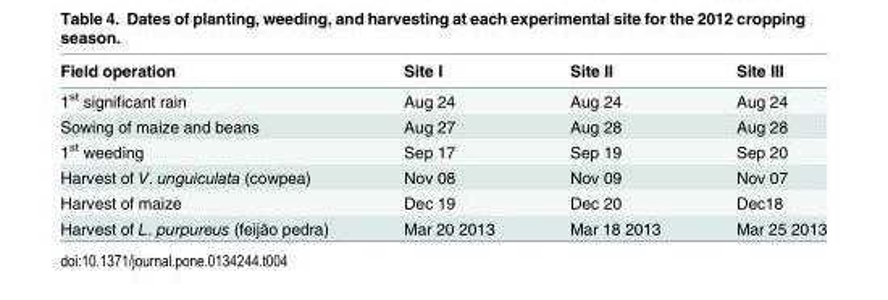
<table><thead><tr><td>Field operation</td><td>Site I</td><td>Site II</td><td>Site III</td></tr></thead><tbody><tr><td>1<sup>st</sup> significant rain</td><td>Aug 24</td><td>Aug 24</td><td>Aug 24</td></tr><tr><td>Sowing of maize and beans</td><td>Aug 27</td><td>Aug 28</td><td>Aug 28</td></tr><tr><td>1<sup>st</sup> weeding</td><td>Sep 17</td><td>Sep 19</td><td>Sep 20</td></tr><tr><td>Harvest of V. unguiculata (cowpea)</td><td>Nov 08</td><td>Nov 09</td><td>Nov 07</td></tr><tr><td>Harvest of maize</td><td>Dec 19</td><td>Dec 20</td><td>Dec18</td></tr><tr><td>Harvest of L. purpureus (feijão pedra)</td><td>Mar 20 2013</td><td>Mar 18 2013</td><td>Mar 25 2013</td></tr></tbody></table>